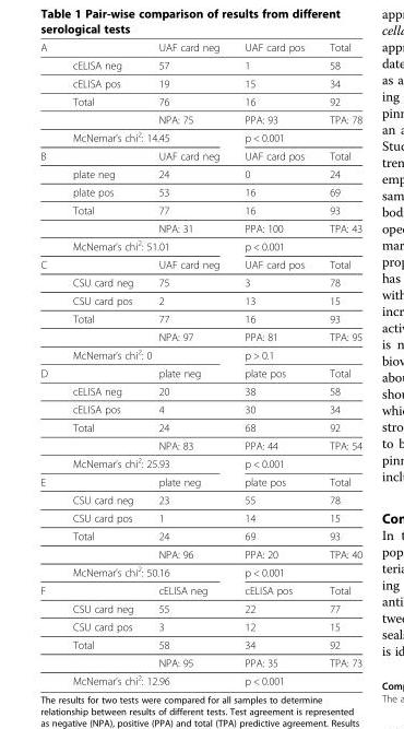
<table><tbody><tr><td rowspan="6">A</td><td></td><td>UAF card neg</td><td>UAF card pos</td><td>Total</td></tr><tr><td>cELISA neg</td><td>57</td><td>1</td><td>58</td></tr><tr><td>cELISA pos</td><td>19</td><td>15</td><td>34</td></tr><tr><td>Total</td><td>76</td><td>16</td><td>92</td></tr><tr><td></td><td>NPA: 75</td><td>PPA: 93</td><td>TPA: 78</td></tr><tr><td colspan="2">McNemar’s chi<sup>2</sup>: 14.45</td><td colspan="2">p &lt; 0.001</td></tr><tr><td rowspan="6">B</td><td></td><td>UAF card neg</td><td>UAF card pos</td><td>Total</td></tr><tr><td>plate neg</td><td>24</td><td>0</td><td>24</td></tr><tr><td>plate pos</td><td>53</td><td>16</td><td>69</td></tr><tr><td>Total</td><td>77</td><td>16</td><td>93</td></tr><tr><td></td><td>NPA: 31</td><td>PPA: 100</td><td>TPA: 43</td></tr><tr><td colspan="2">McNemar’s chi<sup>2</sup>: 51.01</td><td colspan="2">p &lt; 0.001</td></tr><tr><td rowspan="6">C</td><td></td><td>UAF card neg</td><td>UAF card pos</td><td>Total</td></tr><tr><td>CSU card neg</td><td>75</td><td>3</td><td>78</td></tr><tr><td>CSU card pos</td><td>2</td><td>13</td><td>15</td></tr><tr><td>Total</td><td>77</td><td>16</td><td>93</td></tr><tr><td></td><td>NPA: 97</td><td>PPA: 81</td><td>TPA: 95</td></tr><tr><td colspan="2">McNemar’s chi<sup>2</sup>: 0</td><td colspan="2">p &gt; 0.1</td></tr><tr><td rowspan="6">D</td><td></td><td>plate neg</td><td>plate pos</td><td>Total</td></tr><tr><td>cELISA neg</td><td>20</td><td>38</td><td>58</td></tr><tr><td>cELISA pos</td><td>4</td><td>30</td><td>34</td></tr><tr><td>Total</td><td>24</td><td>68</td><td>92</td></tr><tr><td></td><td>NPA: 83</td><td>PPA: 44</td><td>TPA: 54</td></tr><tr><td colspan="2">McNemar’s chi<sup>2</sup>: 25.93</td><td colspan="2">p &lt; 0.001</td></tr><tr><td rowspan="6">E</td><td></td><td>plate neg</td><td>plate pos</td><td>Total</td></tr><tr><td>CSU card neg</td><td>23</td><td>55</td><td>78</td></tr><tr><td>CSU card pos</td><td>1</td><td>14</td><td>15</td></tr><tr><td>Total</td><td>24</td><td>69</td><td>93</td></tr><tr><td></td><td>NPA: 96</td><td>PPA: 20</td><td>TPA: 40</td></tr><tr><td colspan="2">McNemar’s chi<sup>2</sup>: 50.16</td><td colspan="2">p &lt; 0.001</td></tr><tr><td rowspan="6">F</td><td></td><td>cELISA neg</td><td>cELISA pos</td><td>Total</td></tr><tr><td>CSU card neg</td><td>55</td><td>22</td><td>77</td></tr><tr><td>CSU card pos</td><td>3</td><td>12</td><td>15</td></tr><tr><td>Total</td><td>58</td><td>34</td><td>92</td></tr><tr><td></td><td>NPA: 95</td><td>PPA: 35</td><td>TPA: 73</td></tr><tr><td colspan="2">McNemar’s chi<sup>2</sup>: 12.96</td><td colspan="2">p &lt; 0.001</td></tr></tbody></table>